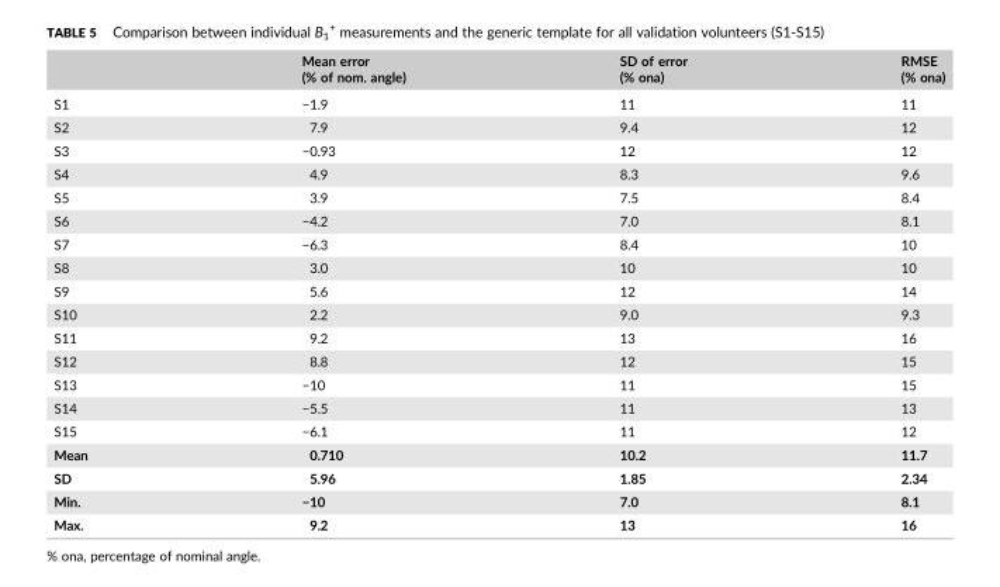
<table><thead><tr><td></td><td>Mean error (% of nom. angle)</td><td>SD of error (% ona)</td><td>RMSE (% ona)</td></tr></thead><tbody><tr><td>S1</td><td>−1.9</td><td>11</td><td>11</td></tr><tr><td>S2</td><td>7.9</td><td>9.4</td><td>12</td></tr><tr><td>S3</td><td>−0.93</td><td>12</td><td>12</td></tr><tr><td>S4</td><td>4.9</td><td>8.3</td><td>9.6</td></tr><tr><td>S5</td><td>3.9</td><td>7.5</td><td>8.4</td></tr><tr><td>S6</td><td>−4.2</td><td>7.0</td><td>8.1</td></tr><tr><td>S7</td><td>−6.3</td><td>8.4</td><td>10</td></tr><tr><td>S8</td><td>3.0</td><td>10</td><td>10</td></tr><tr><td>S9</td><td>5.6</td><td>12</td><td>14</td></tr><tr><td>S10</td><td>2.2</td><td>9.0</td><td>9.3</td></tr><tr><td>S11</td><td>9.2</td><td>13</td><td>16</td></tr><tr><td>S12</td><td>8.8</td><td>12</td><td>15</td></tr><tr><td>S13</td><td>−10</td><td>11</td><td>15</td></tr><tr><td>S14</td><td>−5.5</td><td>11</td><td>13</td></tr><tr><td>S15</td><td>−6.1</td><td>11</td><td>12</td></tr><tr><td>Mean</td><td>0.710</td><td>10.2</td><td>11.7</td></tr><tr><td>SD</td><td>5.96</td><td>1.85</td><td>2.34</td></tr><tr><td>Min.</td><td>−10</td><td>7.0</td><td>8.1</td></tr><tr><td>Max.</td><td>9.2</td><td>13</td><td>16</td></tr></tbody></table>